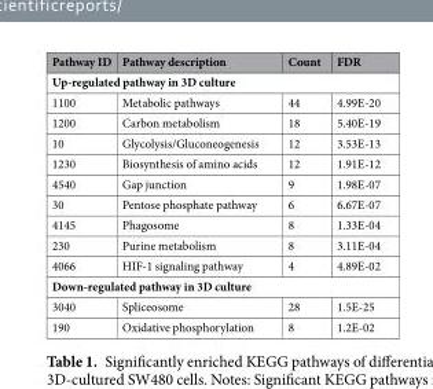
<table><thead><tr><td>Pathway ID</td><td>Pathway description</td><td>Count</td><td>FDR</td></tr></thead><tbody><tr><td colspan="4">Up-regulated pathway in 3D culture</td></tr><tr><td>1100</td><td>Metabolic pathways</td><td>44</td><td>4.99E-20</td></tr><tr><td>1200</td><td>Carbon metabolism</td><td>18</td><td>5.40E-19</td></tr><tr><td>10</td><td>Glycolysis/Gluconeogenesis</td><td>12</td><td>3.53E-13</td></tr><tr><td>1230</td><td>Biosynthesis of amino acids</td><td>12</td><td>1.91E-12</td></tr><tr><td>4540</td><td>Gap junction</td><td>9</td><td>1.98E-07</td></tr><tr><td>30</td><td>Pentose phosphate pathway</td><td>6</td><td>6.67E-07</td></tr><tr><td>4145</td><td>Phagosome</td><td>8</td><td>1.33E-04</td></tr><tr><td>230</td><td>Purine metabolism</td><td>8</td><td>3.11E-04</td></tr><tr><td>4066</td><td>HIF-1 signaling pathway</td><td>4</td><td>4.89E-02</td></tr><tr><td colspan="4">Down-regulated pathway in 3D culture</td></tr><tr><td>3040</td><td>Spliceosome</td><td>28</td><td>1.5E-25</td></tr><tr><td>190</td><td>Oxidative phosphorylation</td><td>8</td><td>1.2E-02</td></tr></tbody></table>